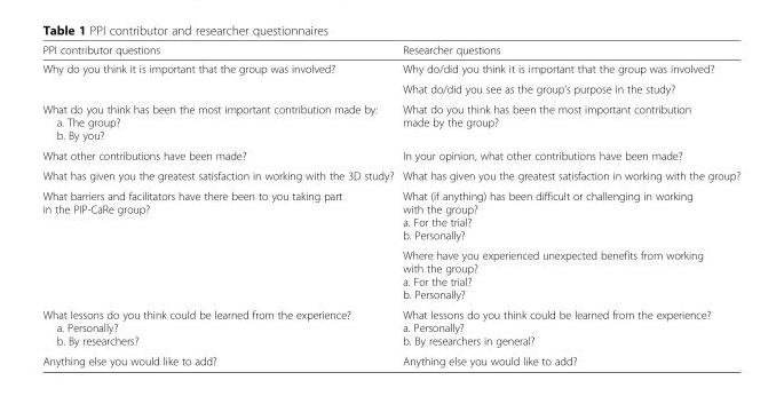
<table><thead><tr><td>PPI contributor questions</td><td>Researcher questions</td></tr></thead><tbody><tr><td rowspan="2">Why do you think it is important that the group was involved?</td><td>Why do/did you think it is important that the group was involved?</td></tr><tr><td>What do/did you see as the group’s purpose in the study?</td></tr><tr><td>What do you think has been the most important contribution made by: a. The group? b. By you?</td><td>What do you think has been the most important contribution made by the group?</td></tr><tr><td>What other contributions have been made?</td><td>In your opinion, what other contributions have been made?</td></tr><tr><td>What has given you the greatest satisfaction in working with the 3D study?</td><td>What has given you the greatest satisfaction in working with the group?</td></tr><tr><td rowspan="2">What barriers and facilitators have there been to you taking part in the PIP-CaRe group?</td><td>What (if anything) has been difficult or challenging in working with the group? a. For the trial? b. Personally?</td></tr><tr><td>Where have you experienced unexpected benefits from working with the group? a. For the trial? b. Personally?</td></tr><tr><td>What lessons do you think could be learned from the experience? a. Personally? b. By researchers?</td><td>What lessons do you think could be learned from the experience? a. Personally? b. By researchers in general?</td></tr><tr><td>Anything else you would like to add?</td><td>Anything else you would like to add?</td></tr></tbody></table>